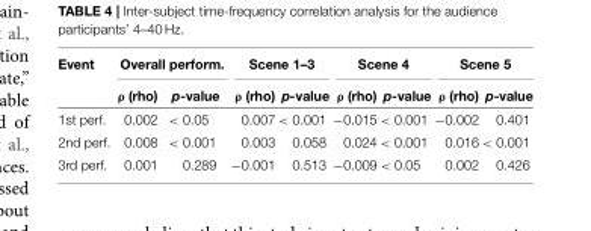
<table><thead><tr><td rowspan="2">Event</td><td colspan="2">Overall perform.</td><td colspan="2">Scene 1–3</td><td colspan="2">Scene 4</td><td colspan="2">Scene 5</td></tr><tr><td>ρ (rho)</td><td>p-value</td><td>ρ (rho)</td><td>p-value</td><td>ρ (rho)</td><td>p-value</td><td>ρ (rho)</td><td>p-value</td></tr></thead><tbody><tr><td>1st perf.</td><td>0.002</td><td>&lt; 0.05</td><td>0.007</td><td>&lt; 0.001</td><td>−0.015</td><td>&lt; 0.001</td><td>−0.002</td><td>0.401</td></tr><tr><td>2nd perf.</td><td>0.008</td><td>&lt; 0.001</td><td>0.003</td><td>0.058</td><td>0.024</td><td>&lt; 0.001</td><td>0.016</td><td>&lt; 0.001</td></tr><tr><td>3rd perf.</td><td>0.001</td><td>0.289</td><td>−0.001</td><td>0.513</td><td>−0.009</td><td>&lt; 0.05</td><td>0.002</td><td>0.426</td></tr></tbody></table>